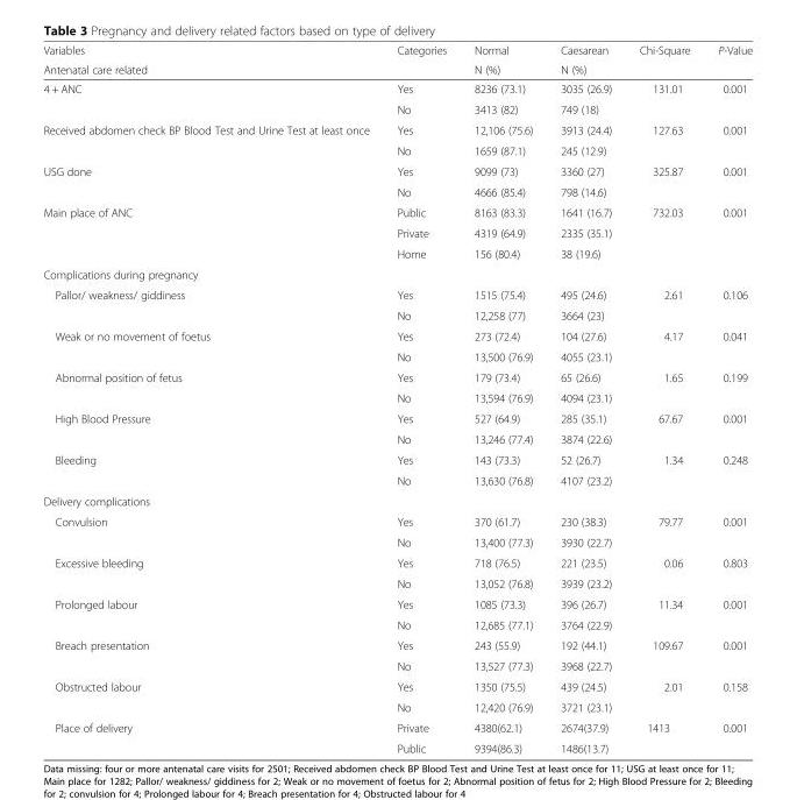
<table><thead><tr><td rowspan="2">Variables Antenatal care related</td><td rowspan="2">Categories</td><td rowspan="2">Normal N (%)</td><td rowspan="2">Caesarean N (%)</td><td rowspan="2">Chi-Square</td><td rowspan="2">P-Value</td></tr><tr></tr></thead><tbody><tr><td rowspan="2">4 + ANC</td><td>Yes</td><td>8236 (73.1)</td><td>3035 (26.9)</td><td rowspan="2">131.01</td><td rowspan="2">0.001</td></tr><tr><td>No</td><td>3413 (82)</td><td>749 (18)</td></tr><tr><td rowspan="2">Received abdomen check BP Blood Test and Urine Test at least once</td><td>Yes</td><td>12,106 (75.6)</td><td>3913 (24.4)</td><td rowspan="2">127.63</td><td rowspan="2">0.001</td></tr><tr><td>No</td><td>1659 (87.1)</td><td>245 (12.9)</td></tr><tr><td rowspan="2">USG done</td><td>Yes</td><td>9099 (73)</td><td>3360 (27)</td><td rowspan="2">325.87</td><td rowspan="2">0.001</td></tr><tr><td>No</td><td>4666 (85.4)</td><td>798 (14.6)</td></tr><tr><td rowspan="3">Main place of ANC</td><td>Public</td><td>8163 (83.3)</td><td>1641 (16.7)</td><td rowspan="3">732.03</td><td rowspan="3">0.001</td></tr><tr><td>Private</td><td>4319 (64.9)</td><td>2335 (35.1)</td></tr><tr><td>Home</td><td>156 (80.4)</td><td>38 (19.6)</td></tr><tr><td colspan="6">Complications during pregnancy</td></tr><tr><td rowspan="2">Pallor/ weakness/ giddiness</td><td>Yes</td><td>1515 (75.4)</td><td>495 (24.6)</td><td rowspan="2">2.61</td><td rowspan="2">0.106</td></tr><tr><td>No</td><td>12,258 (77)</td><td>3664 (23)</td></tr><tr><td rowspan="2">Weak or no movement of foetus</td><td>Yes</td><td>273 (72.4)</td><td>104 (27.6)</td><td rowspan="2">4.17</td><td rowspan="2">0.041</td></tr><tr><td>No</td><td>13,500 (76.9)</td><td>4055 (23.1)</td></tr><tr><td rowspan="2">Abnormal position of fetus</td><td>Yes</td><td>179 (73.4)</td><td>65 (26.6)</td><td rowspan="2">1.65</td><td rowspan="2">0.199</td></tr><tr><td>No</td><td>13,594 (76.9)</td><td>4094 (23.1)</td></tr><tr><td rowspan="2">High Blood Pressure</td><td>Yes</td><td>527 (64.9)</td><td>285 (35.1)</td><td rowspan="2">67.67</td><td rowspan="2">0.001</td></tr><tr><td>No</td><td>13,246 (77.4)</td><td>3874 (22.6)</td></tr><tr><td rowspan="2">Bleeding</td><td>Yes</td><td>143 (73.3)</td><td>52 (26.7)</td><td rowspan="2">1.34</td><td rowspan="2">0.248</td></tr><tr><td>No</td><td>13,630 (76.8)</td><td>4107 (23.2)</td></tr><tr><td colspan="6">Delivery complications</td></tr><tr><td rowspan="2">Convulsion</td><td>Yes</td><td>370 (61.7)</td><td>230 (38.3)</td><td rowspan="2">79.77</td><td rowspan="2">0.001</td></tr><tr><td>No</td><td>13,400 (77.3)</td><td>3930 (22.7)</td></tr><tr><td rowspan="2">Excessive bleeding</td><td>Yes</td><td>718 (76.5)</td><td>221 (23.5)</td><td rowspan="2">0.06</td><td rowspan="2">0.803</td></tr><tr><td>No</td><td>13,052 (76.8)</td><td>3939 (23.2)</td></tr><tr><td rowspan="2">Prolonged labour</td><td>Yes</td><td>1085 (73.3)</td><td>396 (26.7)</td><td rowspan="2">11.34</td><td rowspan="2">0.001</td></tr><tr><td>No</td><td>12,685 (77.1)</td><td>3764 (22.9)</td></tr><tr><td rowspan="2">Breach presentation</td><td>Yes</td><td>243 (55.9)</td><td>192 (44.1)</td><td rowspan="2">109.67</td><td rowspan="2">0.001</td></tr><tr><td>No</td><td>13,527 (77.3)</td><td>3968 (22.7)</td></tr><tr><td rowspan="2">Obstructed labour</td><td>Yes</td><td>1350 (75.5)</td><td>439 (24.5)</td><td rowspan="2">2.01</td><td rowspan="2">0.158</td></tr><tr><td>No</td><td>12,420 (76.9)</td><td>3721 (23.1)</td></tr><tr><td rowspan="2">Place of delivery</td><td>Private</td><td>4380(62.1)</td><td>2674(37.9)</td><td rowspan="2">1413</td><td rowspan="2">0.001</td></tr><tr><td>Public</td><td>9394(86.3)</td><td>1486(13.7)</td></tr></tbody></table>